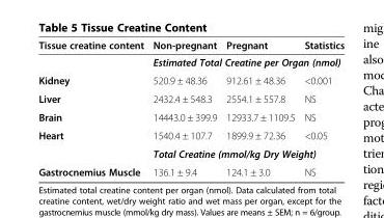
<table><thead><tr><td>Tissue creatine content</td><td>Non-pregnant</td><td>Pregnant</td><td>Statistics</td></tr></thead><tbody><tr><td></td><td colspan="3">Estimated Total Creatine per Organ (nmol)</td></tr><tr><td>Kidney</td><td>520.9 ± 48.36</td><td>912.61 ± 48.36</td><td>&lt;0.001</td></tr><tr><td>Liver</td><td>2432.4 ± 548.3</td><td>2554.1 ± 557.8</td><td>NS</td></tr><tr><td>Brain</td><td>14443.0 ± 399.9</td><td>12933.7 ± 1109.5</td><td>NS</td></tr><tr><td rowspan="2">Heart</td><td>1540.4 ± 107.7</td><td>1899.9 ± 72.36</td><td>&lt;0.05</td></tr><tr><td colspan="3">Total Creatine (mmol/kg Dry Weight)</td></tr><tr><td>Gastrocnemius Muscle</td><td>136.1 ± 9.4</td><td>124.1 ± 3.0</td><td>NS</td></tr></tbody></table>